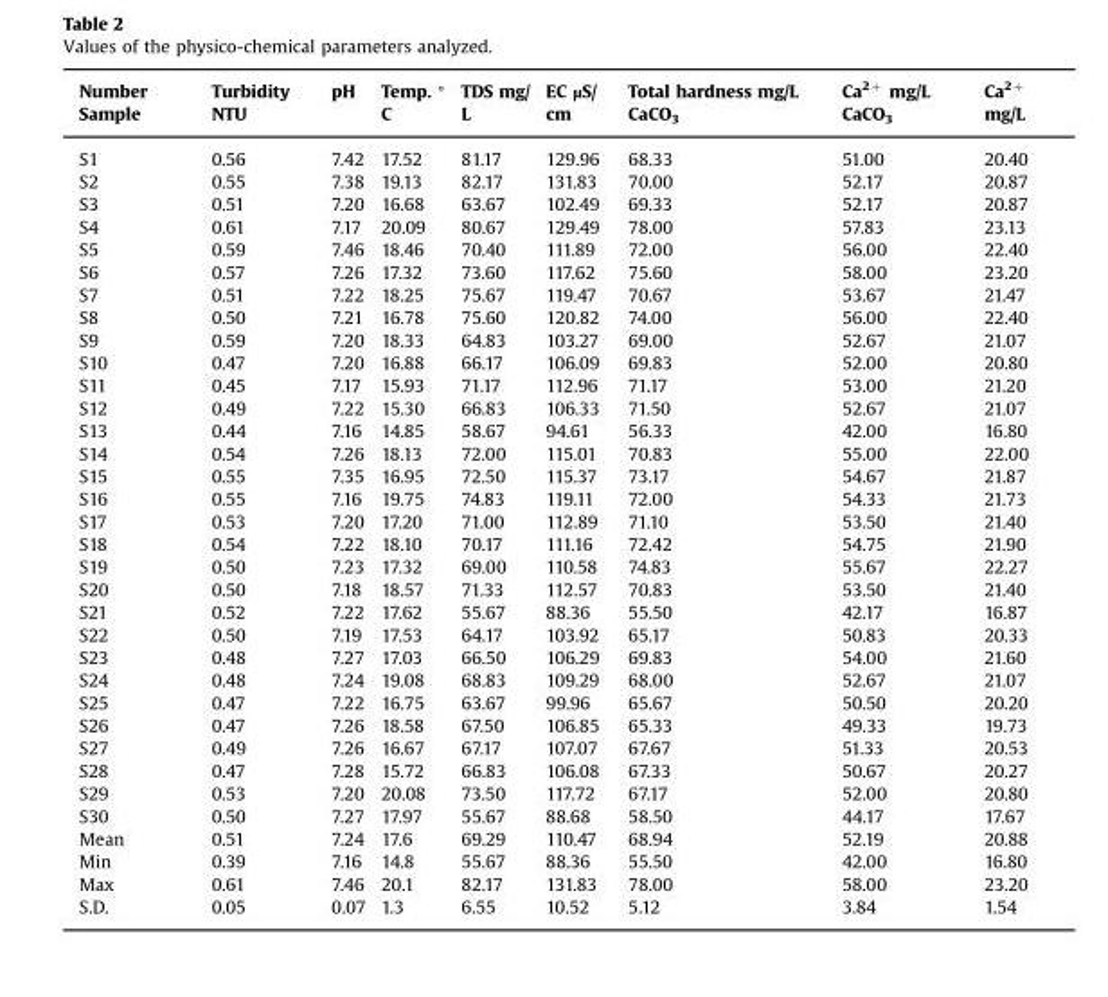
<table><thead><tr><td>Number Sample</td><td>Turbidity NTU</td><td>pH</td><td>Temp. ° C</td><td>TDS mg/ L</td><td>EC µS/ cm</td><td>Total hardness mg/L CaCO<sub>3</sub></td><td>Ca<sup>2+</sup> mg/L CaCO<sub>3</sub></td><td>Ca<sup>2+</sup> mg/L</td></tr></thead><tbody><tr><td>S1</td><td>0.56</td><td>7.42</td><td>17.52</td><td>81.17</td><td>129.96</td><td>68.33</td><td>51.00</td><td>20.40</td></tr><tr><td>S2</td><td>0.55</td><td>7.38</td><td>19.13</td><td>82.17</td><td>131.83</td><td>70.00</td><td>52.17</td><td>20.87</td></tr><tr><td>S3</td><td>0.51</td><td>7.20</td><td>16.68</td><td>63.67</td><td>102.49</td><td>69.33</td><td>52.17</td><td>20.87</td></tr><tr><td>S4</td><td>0.61</td><td>7.17</td><td>20.09</td><td>80.67</td><td>129.49</td><td>78.00</td><td>57.83</td><td>23.13</td></tr><tr><td>S5</td><td>0.59</td><td>7.46</td><td>18.46</td><td>70.40</td><td>111.89</td><td>72.00</td><td>56.00</td><td>22.40</td></tr><tr><td>S6</td><td>0.57</td><td>7.26</td><td>17.32</td><td>73.60</td><td>117.62</td><td>75.60</td><td>58.00</td><td>23.20</td></tr><tr><td>S7</td><td>0.51</td><td>7.22</td><td>18.25</td><td>75.67</td><td>119.47</td><td>70.67</td><td>53.67</td><td>21.47</td></tr><tr><td>S8</td><td>0.50</td><td>7.21</td><td>16.78</td><td>75.60</td><td>120.82</td><td>74.00</td><td>56.00</td><td>22.40</td></tr><tr><td>S9</td><td>0.59</td><td>7.20</td><td>18.33</td><td>64.83</td><td>103.27</td><td>69.00</td><td>52.67</td><td>21.07</td></tr><tr><td>S10</td><td>0.47</td><td>7.20</td><td>16.88</td><td>66.17</td><td>106.09</td><td>69.83</td><td>52.00</td><td>20.80</td></tr><tr><td>S11</td><td>0.45</td><td>7.17</td><td>15.93</td><td>71.17</td><td>112.96</td><td>71.17</td><td>53.00</td><td>21.20</td></tr><tr><td>S12</td><td>0.49</td><td>7.22</td><td>15.30</td><td>66.83</td><td>106.33</td><td>71.50</td><td>52.67</td><td>21.07</td></tr><tr><td>S13</td><td>0.44</td><td>7.16</td><td>14.85</td><td>58.67</td><td>94.61</td><td>56.33</td><td>42.00</td><td>16.80</td></tr><tr><td>S14</td><td>0.54</td><td>7.26</td><td>18.13</td><td>72.00</td><td>115.01</td><td>70.83</td><td>55.00</td><td>22.00</td></tr><tr><td>S15</td><td>0.55</td><td>7.35</td><td>16.95</td><td>72.50</td><td>115.37</td><td>73.17</td><td>54.67</td><td>21.87</td></tr><tr><td>S16</td><td>0.55</td><td>7.16</td><td>19.75</td><td>74.83</td><td>119.11</td><td>72.00</td><td>54.33</td><td>21.73</td></tr><tr><td>S17</td><td>0.53</td><td>7.20</td><td>17.20</td><td>71.00</td><td>112.89</td><td>71.10</td><td>53.50</td><td>21.40</td></tr><tr><td>S18</td><td>0.54</td><td>7.22</td><td>18.10</td><td>70.17</td><td>111.16</td><td>72.42</td><td>54.75</td><td>21.90</td></tr><tr><td>S19</td><td>0.50</td><td>7.23</td><td>17.32</td><td>69.00</td><td>110.58</td><td>74.83</td><td>55.67</td><td>22.27</td></tr><tr><td>S20</td><td>0.50</td><td>7.18</td><td>18.57</td><td>71.33</td><td>112.57</td><td>70.83</td><td>53.50</td><td>21.40</td></tr><tr><td>S21</td><td>0.52</td><td>7.22</td><td>17.62</td><td>55.67</td><td>88.36</td><td>55.50</td><td>42.17</td><td>16.87</td></tr><tr><td>S22</td><td>0.50</td><td>7.19</td><td>17.53</td><td>64.17</td><td>103.92</td><td>65.17</td><td>50.83</td><td>20.33</td></tr><tr><td>S23</td><td>0.48</td><td>7.27</td><td>17.03</td><td>66.50</td><td>106.29</td><td>69.83</td><td>54.00</td><td>21.60</td></tr><tr><td>S24</td><td>0.48</td><td>7.24</td><td>19.08</td><td>68.83</td><td>109.29</td><td>68.00</td><td>52.67</td><td>21.07</td></tr><tr><td>S25</td><td>0.47</td><td>7.22</td><td>16.75</td><td>63.67</td><td>99.96</td><td>65.67</td><td>50.50</td><td>20.20</td></tr><tr><td>S26</td><td>0.47</td><td>7.26</td><td>18.58</td><td>67.50</td><td>106.85</td><td>65.33</td><td>49.33</td><td>19.73</td></tr><tr><td>S27</td><td>0.49</td><td>7.26</td><td>16.67</td><td>67.17</td><td>107.07</td><td>67.67</td><td>51.33</td><td>20.53</td></tr><tr><td>S28</td><td>0.47</td><td>7.28</td><td>15.72</td><td>66.83</td><td>106.08</td><td>67.33</td><td>50.67</td><td>20.27</td></tr><tr><td>S29</td><td>0.53</td><td>7.20</td><td>20.08</td><td>73.50</td><td>117.72</td><td>67.17</td><td>52.00</td><td>20.80</td></tr><tr><td>S30</td><td>0.50</td><td>7.27</td><td>17.97</td><td>55.67</td><td>88.68</td><td>58.50</td><td>44.17</td><td>17.67</td></tr><tr><td>Mean</td><td>0.51</td><td>7.24</td><td>17.6</td><td>69.29</td><td>110.47</td><td>68.94</td><td>52.19</td><td>20.88</td></tr><tr><td>Min</td><td>0.39</td><td>7.16</td><td>14.8</td><td>55.67</td><td>88.36</td><td>55.50</td><td>42.00</td><td>16.80</td></tr><tr><td>Max</td><td>0.61</td><td>7.46</td><td>20.1</td><td>82.17</td><td>131.83</td><td>78.00</td><td>58.00</td><td>23.20</td></tr><tr><td>S.D.</td><td>0.05</td><td>0.07</td><td>1.3</td><td>6.55</td><td>10.52</td><td>5.12</td><td>3.84</td><td>1.54</td></tr></tbody></table>